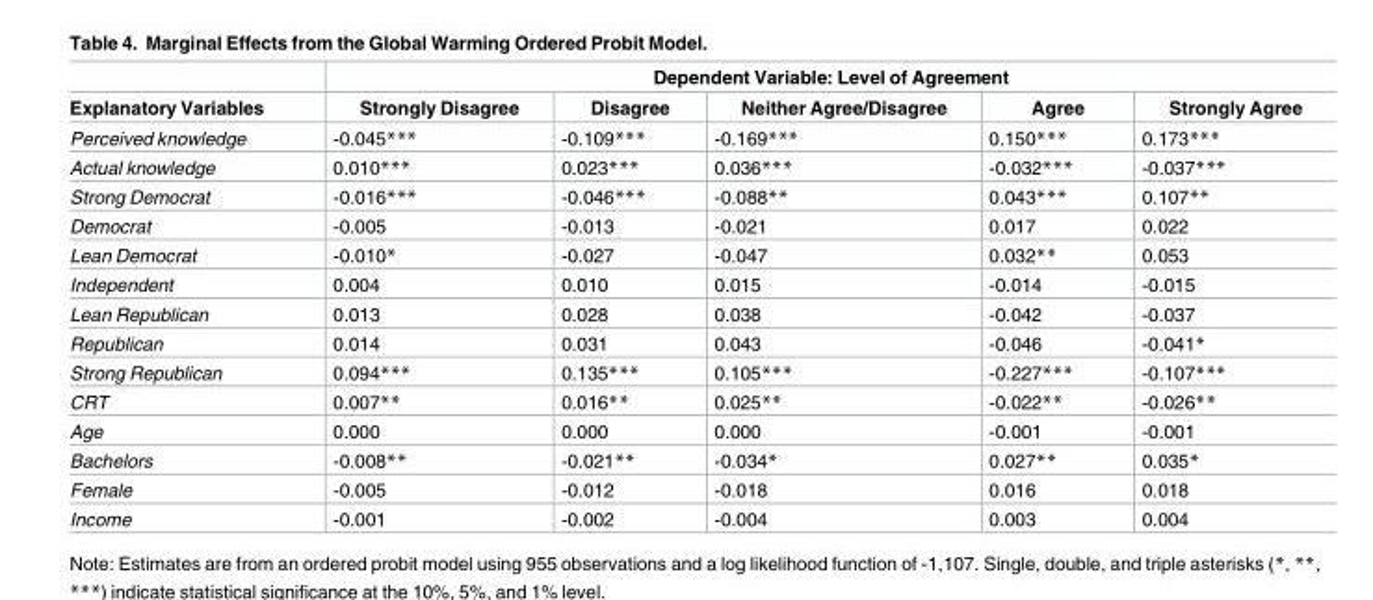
<table><thead><tr><td rowspan="2">Explanatory Variables</td><td colspan="5">Dependent Variable: Level of Agreement</td></tr><tr><td>Strongly Disagree</td><td>Disagree</td><td>Neither Agree/Disagree</td><td>Agree</td><td>Strongly Agree</td></tr></thead><tbody><tr><td>Perceived knowledge</td><td>-0.045***</td><td>-0.109***</td><td>-0.169***</td><td>0.150***</td><td>0.173***</td></tr><tr><td>Actual knowledge</td><td>0.010***</td><td>0.023***</td><td>0.036***</td><td>-0.032***</td><td>-0.037***</td></tr><tr><td>Strong Democrat</td><td>-0.016***</td><td>-0.046***</td><td>-0.088**</td><td>0.043***</td><td>0.107**</td></tr><tr><td>Democrat</td><td>-0.005</td><td>-0.013</td><td>-0.021</td><td>0.017</td><td>0.022</td></tr><tr><td>Lean Democrat</td><td>-0.010*</td><td>-0.027</td><td>-0.047</td><td>0.032**</td><td>0.053</td></tr><tr><td>Independent</td><td>0.004</td><td>0.010</td><td>0.015</td><td>-0.014</td><td>-0.015</td></tr><tr><td>Lean Republican</td><td>0.013</td><td>0.028</td><td>0.038</td><td>-0.042</td><td>-0.037</td></tr><tr><td>Republican</td><td>0.014</td><td>0.031</td><td>0.043</td><td>-0.046</td><td>-0.041*</td></tr><tr><td>Strong Republican</td><td>0.094***</td><td>0.135***</td><td>0.105***</td><td>-0.227***</td><td>-0.107***</td></tr><tr><td>CRT</td><td>0.007**</td><td>0.016**</td><td>0.025**</td><td>-0.022**</td><td>-0.026**</td></tr><tr><td>Age</td><td>0.000</td><td>0.000</td><td>0.000</td><td>-0.001</td><td>-0.001</td></tr><tr><td>Bachelors</td><td>-0.008**</td><td>-0.021**</td><td>-0.034*</td><td>0.027**</td><td>0.035*</td></tr><tr><td>Female</td><td>-0.005</td><td>-0.012</td><td>-0.018</td><td>0.016</td><td>0.018</td></tr><tr><td>Income</td><td>-0.001</td><td>-0.002</td><td>-0.004</td><td>0.003</td><td>0.004</td></tr></tbody></table>